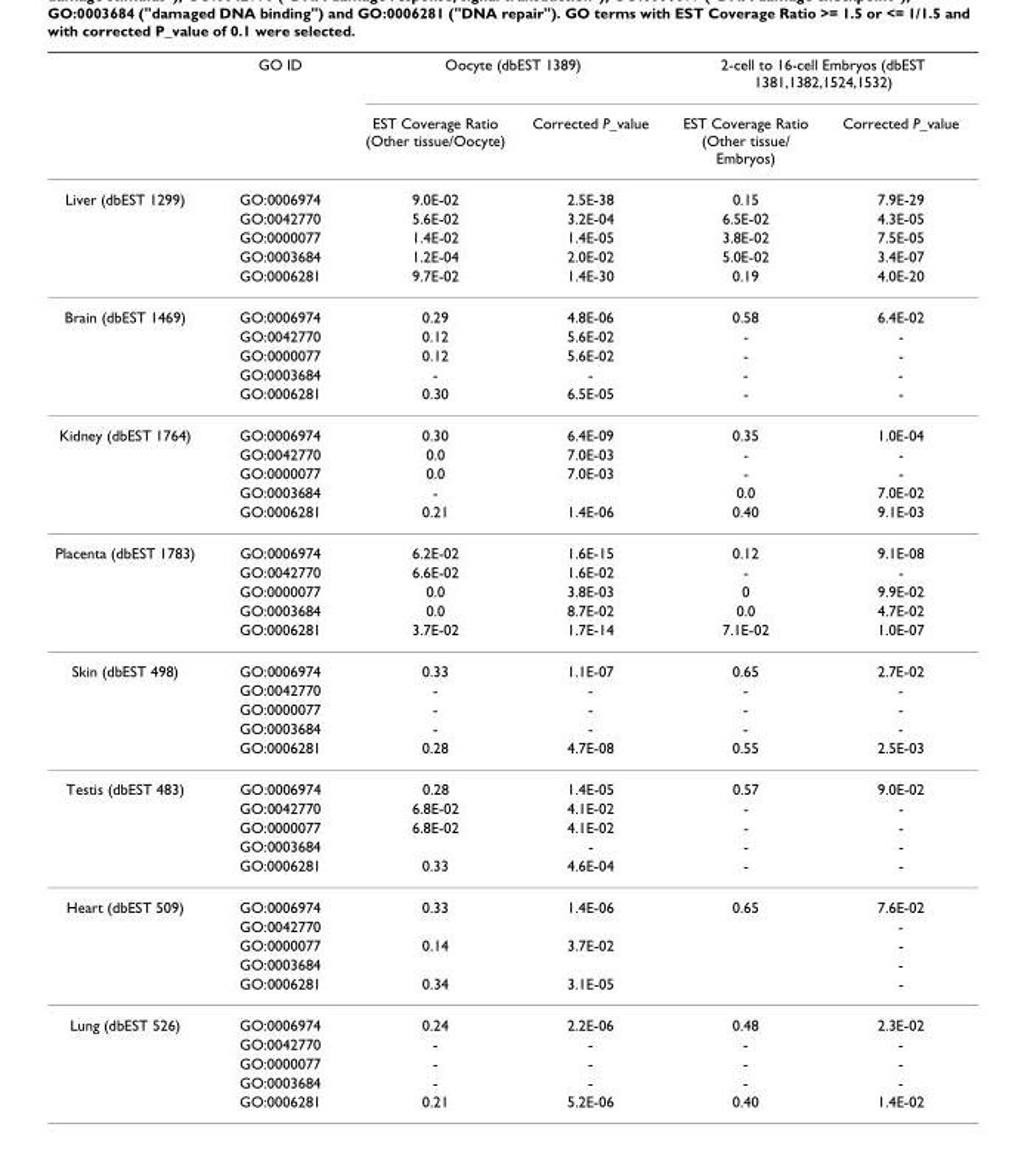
<table><thead><tr><td rowspan="2"></td><td rowspan="2">GO ID</td><td colspan="2">Oocyte (dbEST 1389)</td><td colspan="2">2-cell to 16-cell Embryos (dbEST 1381,1382,1524,1532)</td></tr><tr><td>EST Coverage Ratio (Other tissue/Oocyte)</td><td>Corrected P_value</td><td>EST Coverage Ratio (Other tissue/ Embryos)</td><td>Corrected P_value</td></tr></thead><tbody><tr><td rowspan="5">Liver (dbEST 1299)</td><td>GO:0006974</td><td>9.0E-02</td><td>2.5E-38</td><td>0.15</td><td>7.9E-29</td></tr><tr><td>GO:0042770</td><td>5.6E-02</td><td>3.2E-04</td><td>6.5E-02</td><td>4.3E-05</td></tr><tr><td>GO:0000077</td><td>1.4E-02</td><td>1.4E-05</td><td>3.8E-02</td><td>7.5E-05</td></tr><tr><td>GO:0003684</td><td>1.2E-04</td><td>2.0E-02</td><td>5.0E-02</td><td>3.4E-07</td></tr><tr><td>GO:0006281</td><td>9.7E-02</td><td>1.4E-30</td><td>0.19</td><td>4.0E-20</td></tr><tr><td rowspan="5">Brain (dbEST 1469)</td><td>GO:0006974</td><td>0.29</td><td>4.8E-06</td><td>0.58</td><td>6.4E-02</td></tr><tr><td>GO:0042770</td><td>0.12</td><td>5.6E-02</td><td>-</td><td>-</td></tr><tr><td>GO:0000077</td><td>0.12</td><td>5.6E-02</td><td>-</td><td>-</td></tr><tr><td>GO:0003684</td><td>-</td><td>-</td><td>-</td><td>-</td></tr><tr><td>GO:0006281</td><td>0.30</td><td>6.5E-05</td><td>-</td><td>-</td></tr><tr><td rowspan="5">Kidney (dbEST 1764)</td><td>GO:0006974</td><td>0.30</td><td>6.4E-09</td><td>0.35</td><td>1.0E-04</td></tr><tr><td>GO:0042770</td><td>0.0</td><td>7.0E-03</td><td>-</td><td>-</td></tr><tr><td>GO:0000077</td><td>0.0</td><td>7.0E-03</td><td>-</td><td>-</td></tr><tr><td>GO:0003684</td><td>-</td><td></td><td>0.0</td><td>7.0E-02</td></tr><tr><td>GO:0006281</td><td>0.21</td><td>1.4E-06</td><td>0.40</td><td>9.1E-03</td></tr><tr><td rowspan="5">Placenta (dbEST 1783)</td><td>GO:0006974</td><td>6.2E-02</td><td>1.6E-15</td><td>0.12</td><td>9.1E-08</td></tr><tr><td>GO:0042770</td><td>6.6E-02</td><td>1.6E-02</td><td>-</td><td>-</td></tr><tr><td>GO:0000077</td><td>0.0</td><td>3.8E-03</td><td>0</td><td>9.9E-02</td></tr><tr><td>GO:0003684</td><td>0.0</td><td>8.7E-02</td><td>0.0</td><td>4.7E-02</td></tr><tr><td>GO:0006281</td><td>3.7E-02</td><td>1.7E-14</td><td>7.1E-02</td><td>1.0E-07</td></tr><tr><td rowspan="5">Skin (dbEST 498)</td><td>GO:0006974</td><td>0.33</td><td>1.1E-07</td><td>0.65</td><td>2.7E-02</td></tr><tr><td>GO:0042770</td><td>-</td><td>-</td><td>-</td><td>-</td></tr><tr><td>GO:0000077</td><td>-</td><td>-</td><td>-</td><td>-</td></tr><tr><td>GO:0003684</td><td>-</td><td>-</td><td>-</td><td>-</td></tr><tr><td>GO:0006281</td><td>0.28</td><td>4.7E-08</td><td>0.55</td><td>2.5E-03</td></tr><tr><td rowspan="5">Testis (dbEST 483)</td><td>GO:0006974</td><td>0.28</td><td>1.4E-05</td><td>0.57</td><td>9.0E-02</td></tr><tr><td>GO:0042770</td><td>6.8E-02</td><td>4.1E-02</td><td>-</td><td>-</td></tr><tr><td>GO:0000077</td><td>6.8E-02</td><td>4.1E-02</td><td>-</td><td>-</td></tr><tr><td>GO:0003684</td><td></td><td>-</td><td>-</td><td>-</td></tr><tr><td>GO:0006281</td><td>0.33</td><td>4.6E-04</td><td>-</td><td>-</td></tr><tr><td rowspan="5">Heart (dbEST 509)</td><td>GO:0006974</td><td>0.33</td><td>1.4E-06</td><td>0.65</td><td>7.6E-02</td></tr><tr><td>GO:0042770</td><td></td><td></td><td></td><td>-</td></tr><tr><td>GO:0000077</td><td>0.14</td><td>3.7E-02</td><td></td><td>-</td></tr><tr><td>GO:0003684</td><td></td><td></td><td></td><td>-</td></tr><tr><td>GO:0006281</td><td>0.34</td><td>3.1E-05</td><td></td><td>-</td></tr><tr><td rowspan="5">Lung (dbEST 526)</td><td>GO:0006974</td><td>0.24</td><td>2.2E-06</td><td>0.48</td><td>2.3E-02</td></tr><tr><td>GO:0042770</td><td>-</td><td>-</td><td>-</td><td>-</td></tr><tr><td>GO:0000077</td><td>-</td><td>-</td><td>-</td><td>-</td></tr><tr><td>GO:0003684</td><td>-</td><td>-</td><td>-</td><td>-</td></tr><tr><td>GO:0006281</td><td>0.21</td><td>5.2E-06</td><td>0.40</td><td>1.4E-02</td></tr></tbody></table>